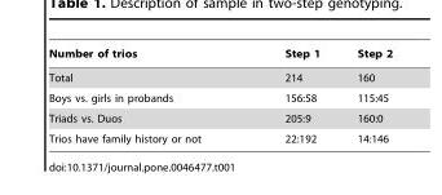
<table><thead><tr><td>Number of trios</td><td>Step 1</td><td>Step 2</td></tr></thead><tbody><tr><td>Total</td><td>214</td><td>160</td></tr><tr><td>Boys vs. girls in probands</td><td>156:58</td><td>115:45</td></tr><tr><td>Triads vs. Duos</td><td>205:9</td><td>160:0</td></tr><tr><td>Trios have family history or not</td><td>22:192</td><td>14:146</td></tr></tbody></table>